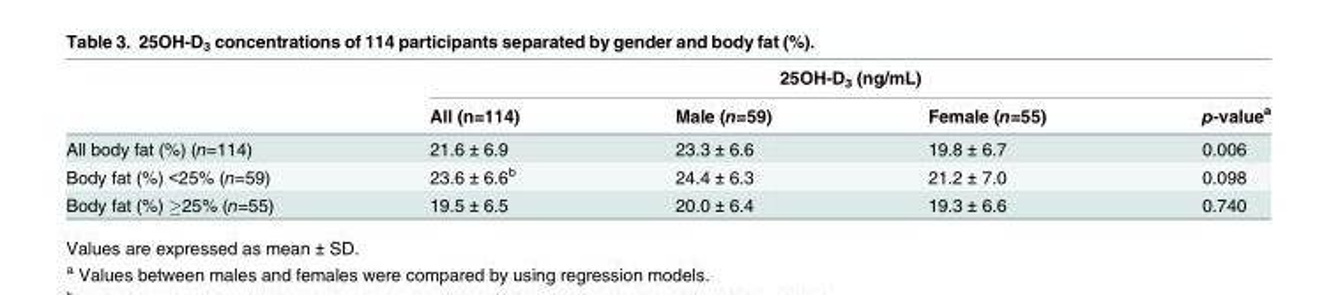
<table><thead><tr><td rowspan="2"></td><td colspan="4">25OH-D<sub>3</sub> (ng/mL)</td></tr><tr><td>All (n=114)</td><td>Male (n=59)</td><td>Female (n=55)</td><td>p-value<sup>a</sup></td></tr></thead><tbody><tr><td>All body fat (%) (n=114)</td><td>21.6 ± 6.9</td><td>23.3 ± 6.6</td><td>19.8 ± 6.7</td><td>0.006</td></tr><tr><td>Body fat (%) &lt;25% (n=59)</td><td>23.6 ± 6.6<sup>b</sup></td><td>24.4 ± 6.3</td><td>21.2 ± 7.0</td><td>0.098</td></tr><tr><td>Body fat (%) ≥25% (n=55)</td><td>19.5 ± 6.5</td><td>20.0 ± 6.4</td><td>19.3 ± 6.6</td><td>0.740</td></tr></tbody></table>